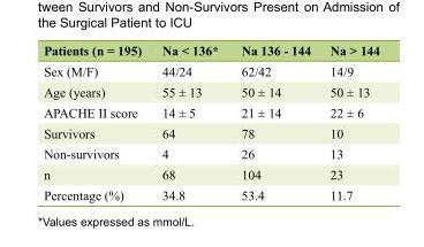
<table><thead><tr><td>Patients (n = 195)</td><td>Na &lt; 136*</td><td>Na 136 - 144</td><td>Na &gt; 144</td></tr></thead><tbody><tr><td>Sex (M/F)</td><td>44/24</td><td>62/42</td><td>14/9</td></tr><tr><td>Age (years)</td><td>55 ± 13</td><td>50 ± 14</td><td>50 ± 13</td></tr><tr><td>APACHE II score</td><td>14 ± 5</td><td>21 ± 14</td><td>22 ± 6</td></tr><tr><td>Survivors</td><td>64</td><td>78</td><td>10</td></tr><tr><td>Non-survivors</td><td>4</td><td>26</td><td>13</td></tr><tr><td>n</td><td>68</td><td>104</td><td>23</td></tr><tr><td>Percentage (%)</td><td>34.8</td><td>53.4</td><td>11.7</td></tr></tbody></table>